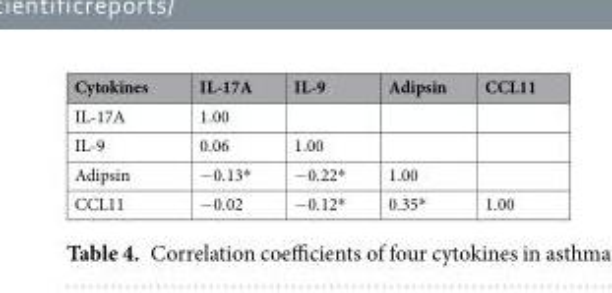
<table><thead><tr><td>Cytokines</td><td>IL-17A</td><td>IL-9</td><td>Adipsin</td><td>CCL11</td></tr></thead><tbody><tr><td>IL-17A</td><td>1.00</td><td></td><td></td><td></td></tr><tr><td>IL-9</td><td>0.06</td><td>1.00</td><td></td><td></td></tr><tr><td>Adipsin</td><td>−0.13*</td><td>−0.22*</td><td>1.00</td><td></td></tr><tr><td>CCL11</td><td>−0.02</td><td>−0.12*</td><td>0.35*</td><td>1.00</td></tr></tbody></table>